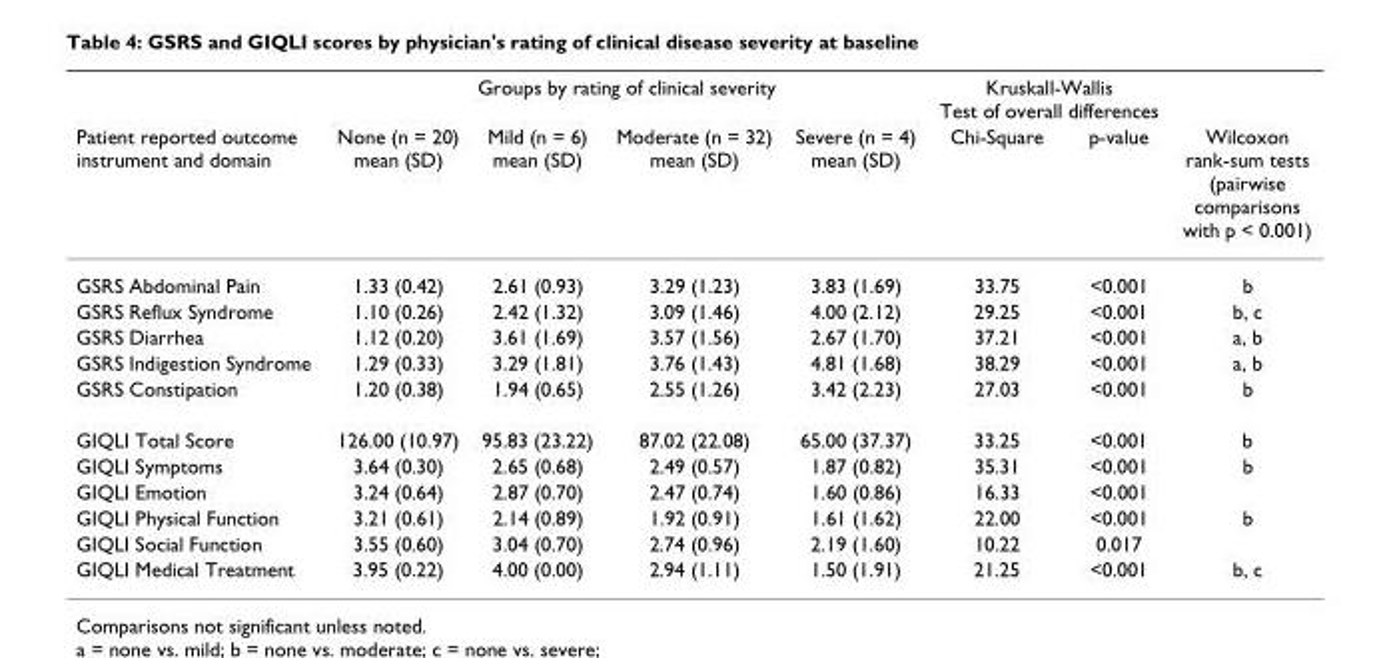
<table><thead><tr><td rowspan="2">Patient reported outcome instrument and domain</td><td colspan="4">Groups by rating of clinical severity</td><td colspan="2">Kruskall-Wallis Test of overall differences</td><td rowspan="2">Wilcoxon rank-sum tests (pairwise comparisons with p &lt; 0.001)</td></tr><tr><td>None (n = 20) mean (SD)</td><td>Mild (n = 6) mean (SD)</td><td>Moderate (n = 32) mean (SD)</td><td>Severe (n = 4) mean (SD)</td><td>Chi-Square</td><td>p-value</td></tr></thead><tbody><tr><td>GSRS Abdominal Pain</td><td>1.33 (0.42)</td><td>2.61 (0.93)</td><td>3.29 (1.23)</td><td>3.83 (1.69)</td><td>33.75</td><td>&lt;0.001</td><td>b</td></tr><tr><td>GSRS Reflux Syndrome</td><td>1.10 (0.26)</td><td>2.42 (1.32)</td><td>3.09 (1.46)</td><td>4.00 (2.12)</td><td>29.25</td><td>&lt;0.001</td><td>b, c</td></tr><tr><td>GSRS Diarrhea</td><td>1.12 (0.20)</td><td>3.61 (1.69)</td><td>3.57 (1.56)</td><td>2.67 (1.70)</td><td>37.21</td><td>&lt;0.001</td><td>a, b</td></tr><tr><td>GSRS Indigestion Syndrome</td><td>1.29 (0.33)</td><td>3.29 (1.81)</td><td>3.76 (1.43)</td><td>4.81 (1.68)</td><td>38.29</td><td>&lt;0.001</td><td>a, b</td></tr><tr><td>GSRS Constipation</td><td>1.20 (0.38)</td><td>1.94 (0.65)</td><td>2.55 (1.26)</td><td>3.42 (2.23)</td><td>27.03</td><td>&lt;0.001</td><td>b</td></tr><tr><td>GIQLI Total Score</td><td>126.00 (10.97)</td><td>95.83 (23.22)</td><td>87.02 (22.08)</td><td>65.00 (37.37)</td><td>33.25</td><td>&lt;0.001</td><td>b</td></tr><tr><td>GIQLI Symptoms</td><td>3.64 (0.30)</td><td>2.65 (0.68)</td><td>2.49 (0.57)</td><td>1.87 (0.82)</td><td>35.31</td><td>&lt;0.001</td><td>b</td></tr><tr><td>GIQLI Emotion</td><td>3.24 (0.64)</td><td>2.87 (0.70)</td><td>2.47 (0.74)</td><td>1.60 (0.86)</td><td>16.33</td><td>&lt;0.001</td><td></td></tr><tr><td>GIQLI Physical Function</td><td>3.21 (0.61)</td><td>2.14 (0.89)</td><td>1.92 (0.91)</td><td>1.61 (1.62)</td><td>22.00</td><td>&lt;0.001</td><td>b</td></tr><tr><td>GIQLI Social Function</td><td>3.55 (0.60)</td><td>3.04 (0.70)</td><td>2.74 (0.96)</td><td>2.19 (1.60)</td><td>10.22</td><td>0.017</td><td></td></tr><tr><td>GIQLI Medical Treatment</td><td>3.95 (0.22)</td><td>4.00 (0.00)</td><td>2.94 (1.11)</td><td>1.50 (1.91)</td><td>21.25</td><td>&lt;0.001</td><td>b, c</td></tr></tbody></table>